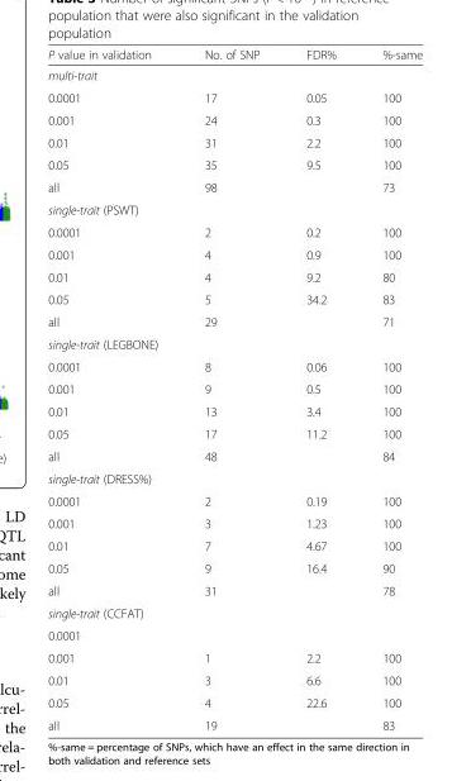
<table><thead><tr><td>P value in validation</td><td>No. of SNP</td><td>FDR%</td><td>%-same</td></tr></thead><tbody><tr><td colspan="4">multi-trait</td></tr><tr><td>0.0001</td><td>17</td><td>0.05</td><td>100</td></tr><tr><td>0.001</td><td>24</td><td>0.3</td><td>100</td></tr><tr><td>0.01</td><td>31</td><td>2.2</td><td>100</td></tr><tr><td>0.05</td><td>35</td><td>9.5</td><td>100</td></tr><tr><td>all</td><td>98</td><td></td><td>73</td></tr><tr><td colspan="4">single-trait (PSWT)</td></tr><tr><td>0.0001</td><td>2</td><td>0.2</td><td>100</td></tr><tr><td>0.001</td><td>4</td><td>0.9</td><td>100</td></tr><tr><td>0.01</td><td>4</td><td>9.2</td><td>80</td></tr><tr><td>0.05</td><td>5</td><td>34.2</td><td>83</td></tr><tr><td>all</td><td>29</td><td></td><td>71</td></tr><tr><td colspan="4">single-trait (LEGBONE)</td></tr><tr><td>0.0001</td><td>8</td><td>0.06</td><td>100</td></tr><tr><td>0.001</td><td>9</td><td>0.5</td><td>100</td></tr><tr><td>0.01</td><td>13</td><td>3.4</td><td>100</td></tr><tr><td>0.05</td><td>17</td><td>11.2</td><td>100</td></tr><tr><td>all</td><td>48</td><td></td><td>84</td></tr><tr><td colspan="4">single-trait (DRESS%)</td></tr><tr><td>0.0001</td><td>2</td><td>0.19</td><td>100</td></tr><tr><td>0.001</td><td>3</td><td>1.23</td><td>100</td></tr><tr><td>0.01</td><td>7</td><td>4.67</td><td>100</td></tr><tr><td>0.05</td><td>9</td><td>16.4</td><td>90</td></tr><tr><td>all</td><td>31</td><td></td><td>78</td></tr><tr><td colspan="4">single-trait (CCFAT)</td></tr><tr><td colspan="4">0.0001</td></tr><tr><td>0.001</td><td>1</td><td>2.2</td><td>100</td></tr><tr><td>0.01</td><td>3</td><td>6.6</td><td>100</td></tr><tr><td>0.05</td><td>4</td><td>22.6</td><td>100</td></tr><tr><td>all</td><td>19</td><td></td><td>83</td></tr></tbody></table>